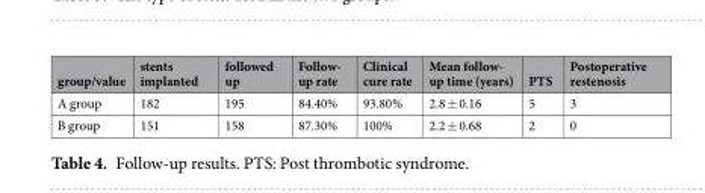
<table><thead><tr><td>group/value</td><td>stents implanted</td><td>followed up</td><td>Follow- up rate</td><td>Clinical cure rate</td><td>Mean follow- up time (years)</td><td>PTS</td><td>Postoperative restenosis</td></tr></thead><tbody><tr><td>A group</td><td>182</td><td>195</td><td>84.40%</td><td>93.80%</td><td>2.8 ± 0.16</td><td>5</td><td>3</td></tr><tr><td>B group</td><td>151</td><td>158</td><td>87.30%</td><td>100%</td><td>2.2 ± 0.68</td><td>2</td><td>0</td></tr></tbody></table>